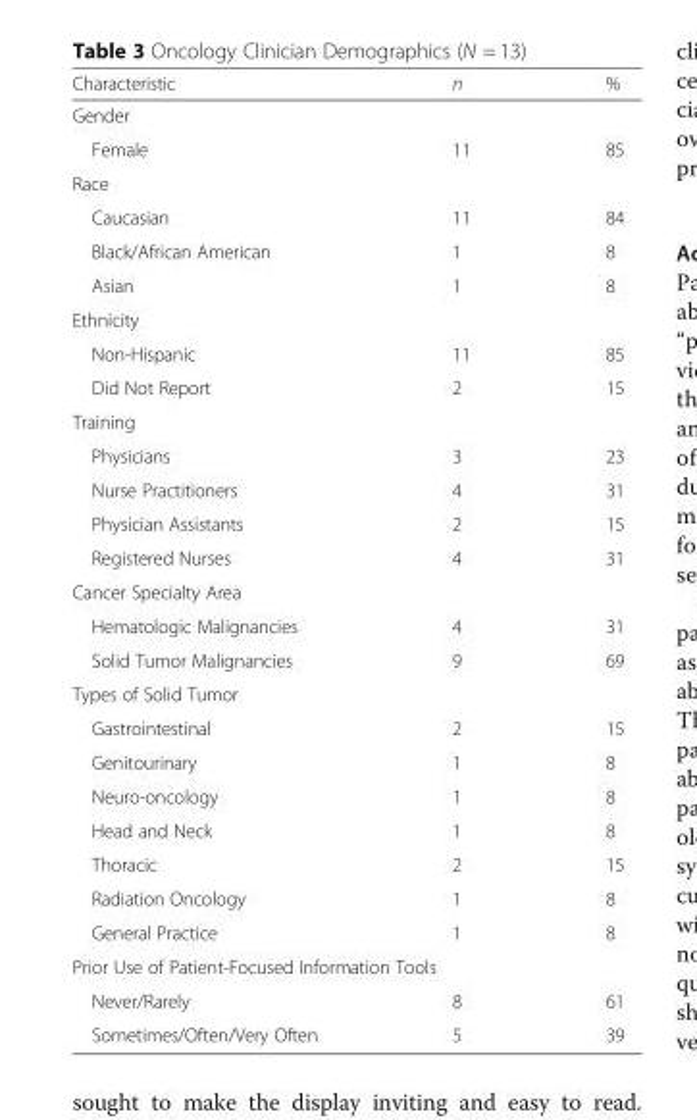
<table><thead><tr><td>Characteristic</td><td>n</td><td>%</td></tr></thead><tbody><tr><td colspan="3">Gender</td></tr><tr><td>Female</td><td>11</td><td>85</td></tr><tr><td colspan="3">Race</td></tr><tr><td>Caucasian</td><td>11</td><td>84</td></tr><tr><td>Black/African American</td><td>1</td><td>8</td></tr><tr><td>Asian</td><td>1</td><td>8</td></tr><tr><td colspan="3">Ethnicity</td></tr><tr><td>Non-Hispanic</td><td>11</td><td>85</td></tr><tr><td>Did Not Report</td><td>2</td><td>15</td></tr><tr><td colspan="3">Training</td></tr><tr><td>Physicians</td><td>3</td><td>23</td></tr><tr><td>Nurse Practitioners</td><td>4</td><td>31</td></tr><tr><td>Physician Assistants</td><td>2</td><td>15</td></tr><tr><td>Registered Nurses</td><td>4</td><td>31</td></tr><tr><td colspan="3">Cancer Specialty Area</td></tr><tr><td>Hematologic Malignancies</td><td>4</td><td>31</td></tr><tr><td>Solid Tumor Malignancies</td><td>9</td><td>69</td></tr><tr><td colspan="3">Types of Solid Tumor</td></tr><tr><td>Gastrointestinal</td><td>2</td><td>15</td></tr><tr><td>Genitourinary</td><td>1</td><td>8</td></tr><tr><td>Neuro-oncology</td><td>1</td><td>8</td></tr><tr><td>Head and Neck</td><td>1</td><td>8</td></tr><tr><td>Thoracic</td><td>2</td><td>15</td></tr><tr><td>Radiation Oncology</td><td>1</td><td>8</td></tr><tr><td>General Practice</td><td>1</td><td>8</td></tr><tr><td colspan="3">Prior Use of Patient-Focused Information Tools</td></tr><tr><td>Never/Rarely</td><td>8</td><td>61</td></tr><tr><td>Sometimes/Often/Very Often</td><td>5</td><td>39</td></tr></tbody></table>